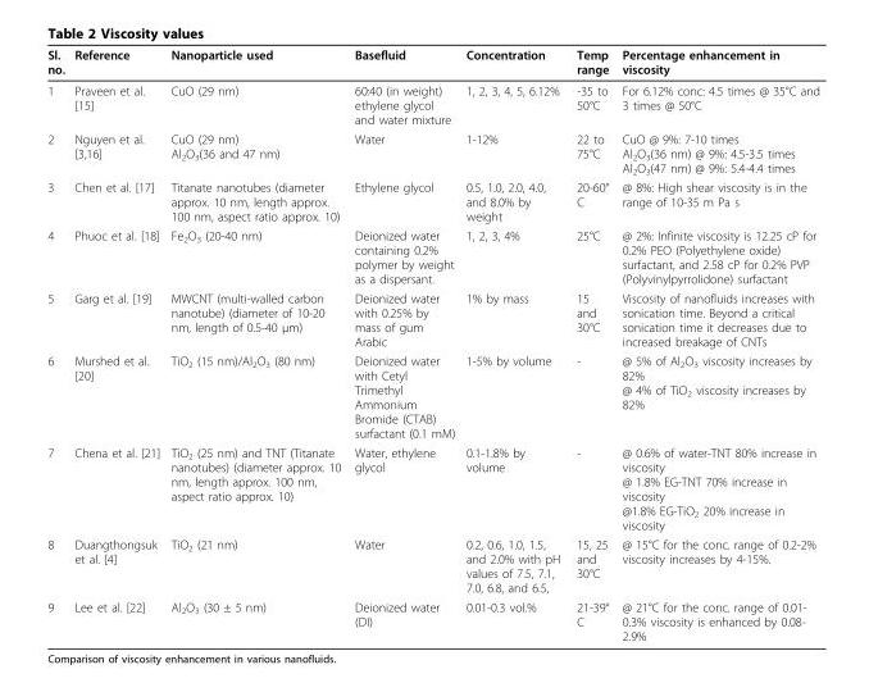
<table><thead><tr><td>Sl. no.</td><td>Reference</td><td>Nanoparticle used</td><td>Basefluid</td><td>Concentration</td><td>Temp range</td><td>Percentage enhancement in viscosity</td></tr></thead><tbody><tr><td>1</td><td>Praveen et al. [15]</td><td>CuO (29 nm)</td><td>60:40 (in weight) ethylene glycol and water mixture</td><td>1, 2, 3, 4, 5, 6.12%</td><td>-35 to 50°C</td><td>For 6.12% conc: 4.5 times @ 35°C and 3 times @ 50°C</td></tr><tr><td>2</td><td>Nguyen et al. [3,16]</td><td>CuO (29 nm) Al<sub>2</sub>O<sub>3</sub>(36 and 47 nm)</td><td>Water</td><td>1-12%</td><td>22 to 75°C</td><td>CuO @ 9%: 7-10 times Al<sub>2</sub>O<sub>3</sub>(36 nm) @ 9%: 4.5-3.5 times Al<sub>2</sub>O<sub>3</sub>(47 nm) @ 9%: 5.4-4.4 times</td></tr><tr><td>3</td><td>Chen et al. [17]</td><td>Titanate nanotubes (diameter approx. 10 nm, length approx. 100 nm, aspect ratio approx. 10)</td><td>Ethylene glycol</td><td>0.5, 1.0, 2.0, 4.0, and 8.0% by weight</td><td>20-60° C</td><td>@ 8%: High shear viscosity is in the range of 10-35 m Pa s</td></tr><tr><td>4</td><td>Phuoc et al. [18]</td><td>Fe<sub>2</sub>O<sub>3</sub> (20-40 nm)</td><td>Deionized water containing 0.2% polymer by weight as a dispersant.</td><td>1, 2, 3, 4%</td><td>25°C</td><td>@ 2%: Infinite viscosity is 12.25 cP for 0.2% PEO (Polyethylene oxide) surfactant, and 2.58 cP for 0.2% PVP (Polyvinylpyrrolidone) surfactant</td></tr><tr><td>5</td><td>Garg et al. [19]</td><td>MWCNT (multi-walled carbon nanotube) (diameter of 10-20 nm, length of 0.5-40 μm)</td><td>Deionized water with 0.25% by mass of gum Arabic</td><td>1% by mass</td><td>15 and 30°C</td><td>Viscosity of nanofluids increases with sonication time. Beyond a critical sonication time it decreases due to increased breakage of CNTs</td></tr><tr><td>6</td><td>Murshed et al. [20]</td><td>TiO<sub>2</sub> (15 nm)/Al<sub>2</sub>O<sub>3</sub> (80 nm)</td><td>Deionized water with Cetyl Trimethyl Ammonium Bromide (CTAB) surfactant (0.1 mM)</td><td>1-5% by volume</td><td>-</td><td>@ 5% of Al<sub>2</sub>O<sub>3</sub> viscosity increases by 82% @ 4% of TiO<sub>2</sub> viscosity increases by 82%</td></tr><tr><td>7</td><td>Chena et al. [21]</td><td>TiO<sub>2</sub> (25 nm) and TNT (Titanate nanotubes) (diameter approx. 10 nm, length approx. 100 nm, aspect ratio approx. 10)</td><td>Water, ethylene glycol</td><td>0.1-1.8% by volume</td><td>-</td><td>@ 0.6% of water-TNT 80% increase in viscosity @ 1.8% EG-TNT 70% increase in viscosity @1.8% EG-TiO<sub>2</sub> 20% increase in viscosity</td></tr><tr><td>8</td><td>Duangthongsuk et al. [4]</td><td>TiO<sub>2</sub> (21 nm)</td><td>Water</td><td>0.2, 0.6, 1.0, 1.5, and 2.0% with pH values of 7.5, 7.1, 7.0, 6.8, and 6.5,</td><td>15, 25 and 30°C</td><td>@ 15°C for the conc. range of 0.2-2% viscosity increases by 4-15%.</td></tr><tr><td>9</td><td>Lee et al. [22]</td><td>Al<sub>2</sub>O<sub>3</sub> (30 ± 5 nm)</td><td>Deionized water (DI)</td><td>0.01-0.3 vol.%</td><td>21-39° C</td><td>@ 21°C for the conc. range of 0.01- 0.3% viscosity is enhanced by 0.08- 2.9%</td></tr></tbody></table>